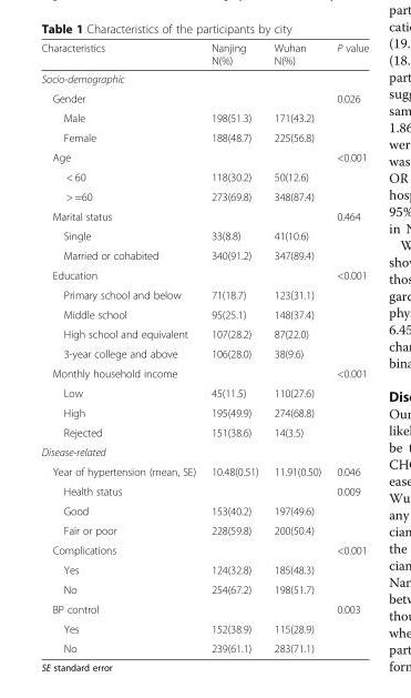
<table><thead><tr><td>Characteristics</td><td>Nanjing N(%)</td><td>Wuhan N(%)</td><td>P value</td></tr></thead><tbody><tr><td colspan="4">Socio-demographic</td></tr><tr><td>Gender</td><td></td><td></td><td>0.026</td></tr><tr><td>Male</td><td>198(51.3)</td><td>171(43.2)</td><td rowspan="2"></td></tr><tr><td>Female</td><td>188(48.7)</td><td>225(56.8)</td></tr><tr><td>Age</td><td></td><td></td><td>&lt;0.001</td></tr><tr><td>&lt; 60</td><td>118(30.2)</td><td>50(12.6)</td><td rowspan="2"></td></tr><tr><td>&gt; =60</td><td>273(69.8)</td><td>348(87.4)</td></tr><tr><td>Marital status</td><td></td><td></td><td>0.464</td></tr><tr><td>Single</td><td>33(8.8)</td><td>41(10.6)</td><td rowspan="2"></td></tr><tr><td>Married or cohabited</td><td>340(91.2)</td><td>347(89.4)</td></tr><tr><td>Education</td><td></td><td></td><td>&lt;0.001</td></tr><tr><td>Primary school and below</td><td>71(18.7)</td><td>123(31.1)</td><td rowspan="4"></td></tr><tr><td>Middle school</td><td>95(25.1)</td><td>148(37.4)</td></tr><tr><td>High school and equivalent</td><td>107(28.2)</td><td>87(22.0)</td></tr><tr><td>3-year college and above</td><td>106(28.0)</td><td>38(9.6)</td></tr><tr><td>Monthly household income</td><td></td><td></td><td>&lt;0.001</td></tr><tr><td>Low</td><td>45(11.5)</td><td>110(27.6)</td><td rowspan="3"></td></tr><tr><td>High</td><td>195(49.9)</td><td>274(68.8)</td></tr><tr><td>Rejected</td><td>151(38.6)</td><td>14(3.5)</td></tr><tr><td colspan="4">Disease-related</td></tr><tr><td>Year of hypertension (mean, SE)</td><td>10.48(0.51)</td><td>11.91(0.50)</td><td>0.046</td></tr><tr><td>Health status</td><td></td><td></td><td>0.009</td></tr><tr><td>Good</td><td>153(40.2)</td><td>197(49.6)</td><td rowspan="2"></td></tr><tr><td>Fair or poor</td><td>228(59.8)</td><td>200(50.4)</td></tr><tr><td>Complications</td><td></td><td></td><td>&lt;0.001</td></tr><tr><td>Yes</td><td>124(32.8)</td><td>185(48.3)</td><td rowspan="2"></td></tr><tr><td>No</td><td>254(67.2)</td><td>198(51.7)</td></tr><tr><td>BP control</td><td></td><td></td><td>0.003</td></tr><tr><td>Yes</td><td>152(38.9)</td><td>115(28.9)</td><td rowspan="2"></td></tr><tr><td>No</td><td>239(61.1)</td><td>283(71.1)</td></tr></tbody></table>